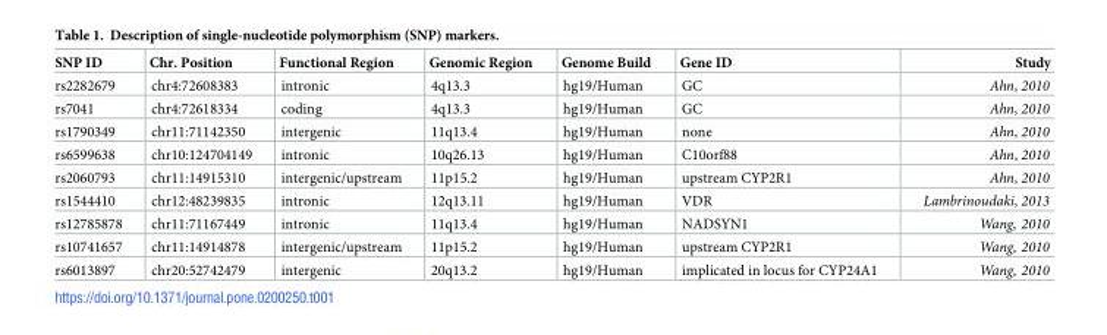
<table><thead><tr><td>SNP ID</td><td>Chr. Position</td><td>Functional Region</td><td>Genomic Region</td><td>Genome Build</td><td>Gene ID</td><td>Study</td></tr></thead><tbody><tr><td>rs2282679</td><td>chr4:72608383</td><td>intronic</td><td>4q13.3</td><td>hg19/Human</td><td>GC</td><td>Ahn, 2010</td></tr><tr><td>rs7041</td><td>chr4:72618334</td><td>coding</td><td>4q13.3</td><td>hg19/Human</td><td>GC</td><td>Ahn, 2010</td></tr><tr><td>rs1790349</td><td>chr11:71142350</td><td>intergenic</td><td>11q13.4</td><td>hg19/Human</td><td>none</td><td>Ahn, 2010</td></tr><tr><td>rs6599638</td><td>chr10:124704149</td><td>intronic</td><td>10q26.13</td><td>hg19/Human</td><td>C10orf88</td><td>Ahn, 2010</td></tr><tr><td>rs2060793</td><td>chr11:14915310</td><td>intergenic/upstream</td><td>11p15.2</td><td>hg19/Human</td><td>upstream CYP2R1</td><td>Ahn, 2010</td></tr><tr><td>rs1544410</td><td>chr12:48239835</td><td>intronic</td><td>12q13.11</td><td>hg19/Human</td><td>VDR</td><td>Lambrinoudaki, 2013</td></tr><tr><td>rs12785878</td><td>chr11:71167449</td><td>intronic</td><td>11q13.4</td><td>hg19/Human</td><td>NADSYN1</td><td>Wang, 2010</td></tr><tr><td>rs10741657</td><td>chr11:14914878</td><td>intergenic/upstream</td><td>11p15.2</td><td>hg19/Human</td><td>upstream CYP2R1</td><td>Wang, 2010</td></tr><tr><td>rs6013897</td><td>chr20:52742479</td><td>intergenic</td><td>20q13.2</td><td>hg19/Human</td><td>implicated in locus for CYP24A1</td><td>Wang, 2010</td></tr></tbody></table>